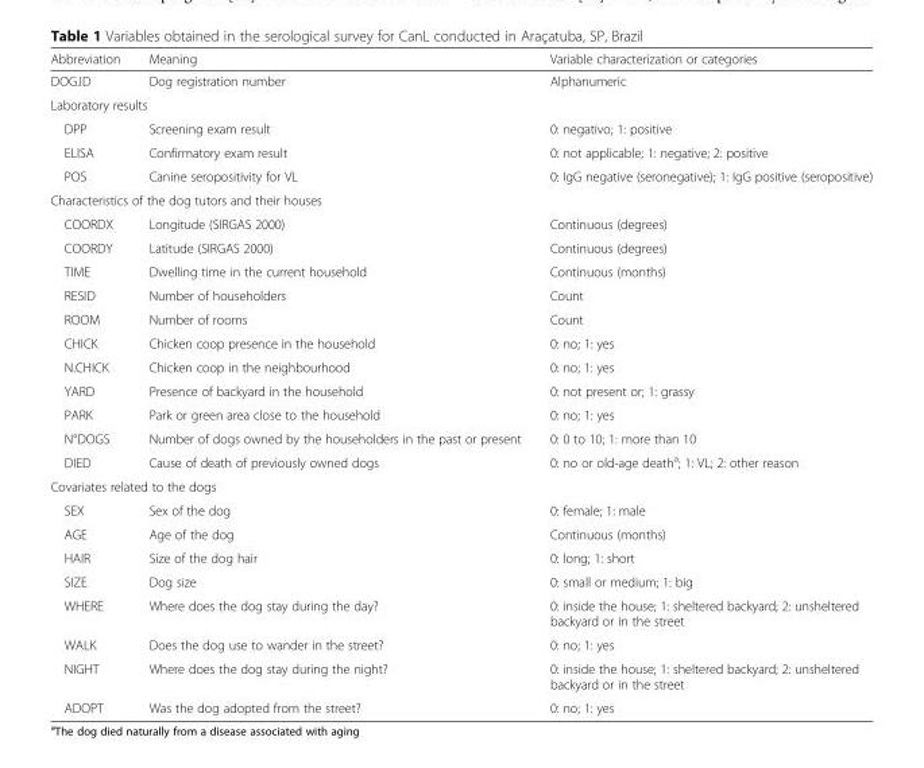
<table><thead><tr><td>Abbreviation</td><td>Meaning</td><td>Variable characterization or categories</td></tr></thead><tbody><tr><td>DOG.ID</td><td>Dog registration number</td><td>Alphanumeric</td></tr><tr><td colspan="3">Laboratory results</td></tr><tr><td>DPP</td><td>Screening exam result</td><td>0: negativo; 1: positive</td></tr><tr><td>ELISA</td><td>Confirmatory exam result</td><td>0: not applicable; 1: negative; 2: positive</td></tr><tr><td>POS</td><td>Canine seropositivity for VL</td><td>0: IgG negative (seronegative); 1: IgG positive (seropositive)</td></tr><tr><td colspan="3">Characteristics of the dog tutors and their houses</td></tr><tr><td>COORDX</td><td>Longitude (SIRGAS 2000)</td><td>Continuous (degrees)</td></tr><tr><td>COORDY</td><td>Latitude (SIRGAS 2000)</td><td>Continuous (degrees)</td></tr><tr><td>TIME</td><td>Dwelling time in the current household</td><td>Continuous (months)</td></tr><tr><td>RESID</td><td>Number of householders</td><td>Count</td></tr><tr><td>ROOM</td><td>Number of rooms</td><td>Count</td></tr><tr><td>CHICK</td><td>Chicken coop presence in the household</td><td>0: no; 1: yes</td></tr><tr><td>N.CHICK</td><td>Chicken coop in the neighbourhood</td><td>0: no; 1: yes</td></tr><tr><td>YARD</td><td>Presence of backyard in the household</td><td>0: not present or; 1: grassy</td></tr><tr><td>PARK</td><td>Park or green area close to the household</td><td>0: no; 1: yes</td></tr><tr><td>N°DOGS</td><td>Number of dogs owned by the householders in the past or present</td><td>0: 0 to 10; 1: more than 10</td></tr><tr><td>DIED</td><td>Cause of death of previously owned dogs</td><td>0: no or old-age death<sup>a</sup>; 1: VL; 2: other reason</td></tr><tr><td colspan="3">Covariates related to the dogs</td></tr><tr><td>SEX</td><td>Sex of the dog</td><td>0: female; 1: male</td></tr><tr><td>AGE</td><td>Age of the dog</td><td>Continuous (months)</td></tr><tr><td>HAIR</td><td>Size of the dog hair</td><td>0: long; 1: short</td></tr><tr><td>SIZE</td><td>Dog size</td><td>0: small or medium; 1: big</td></tr><tr><td>WHERE</td><td>Where does the dog stay during the day?</td><td>0: inside the house; 1: sheltered backyard; 2: unsheltered backyard or in the street</td></tr><tr><td>WALK</td><td>Does the dog use to wander in the street?</td><td>0: no; 1: yes</td></tr><tr><td>NIGHT</td><td>Where does the dog stay during the night?</td><td>0: inside the house; 1: sheltered backyard; 2: unsheltered backyard or in the street</td></tr><tr><td>ADOPT</td><td>Was the dog adopted from the street?</td><td>0: no; 1: yes</td></tr></tbody></table>